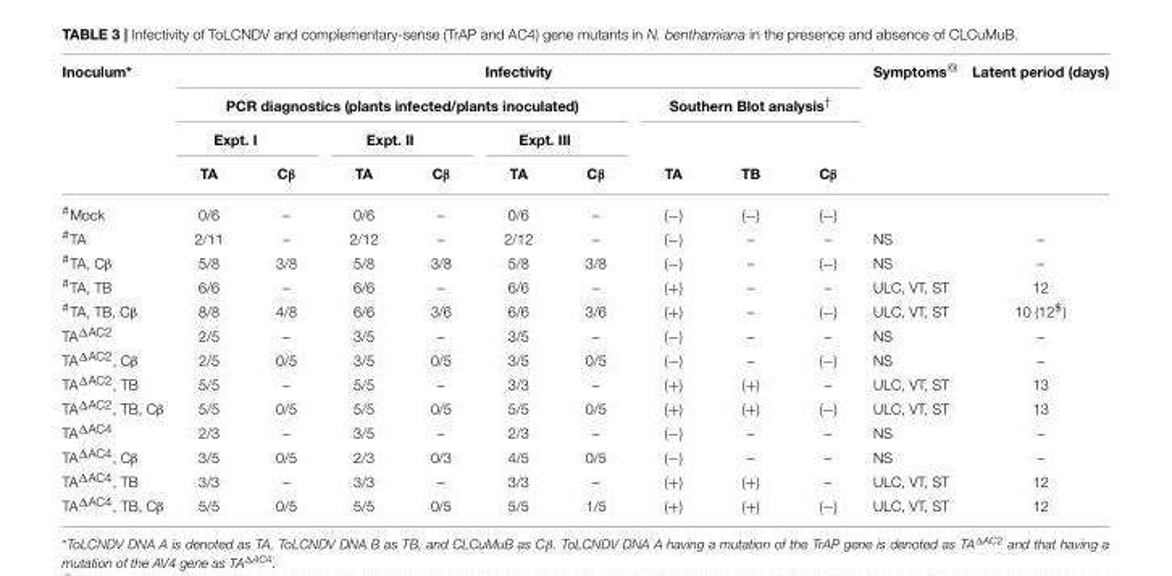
<table><thead><tr><td rowspan="4">Inoculum*</td><td colspan="9">Infectivity</td><td rowspan="4">Symptoms<sup>@</sup></td><td rowspan="4">Latent period (days)</td></tr><tr><td colspan="6">PCR diagnostics (plants infected/plants inoculated)</td><td colspan="3">Southern Blot analysis<sup>†</sup></td></tr><tr><td colspan="2">Expt. I</td><td colspan="2">Expt. II</td><td colspan="2">Expt. III</td><td rowspan="2">TA</td><td rowspan="2">TB</td><td rowspan="2">Cβ</td></tr><tr><td>TA</td><td>Cβ</td><td>TA</td><td>Cβ</td><td>TA</td><td>Cβ</td></tr></thead><tbody><tr><td><sup>#</sup>Mock</td><td>0/6</td><td>–</td><td>0/6</td><td>–</td><td>0/6</td><td>–</td><td>(−)</td><td>(−)</td><td>(−)</td><td></td><td></td></tr><tr><td><sup>#</sup>TA</td><td>2/11</td><td>–</td><td>2/12</td><td>–</td><td>2/12</td><td>–</td><td>(−)</td><td>–</td><td>–</td><td>NS</td><td>–</td></tr><tr><td><sup>#</sup>TA, Cβ</td><td>5/8</td><td>3/8</td><td>5/8</td><td>3/8</td><td>5/8</td><td>3/8</td><td>(−)</td><td>–</td><td>(−)</td><td>NS</td><td>–</td></tr><tr><td><sup>#</sup>TA, TB</td><td>6/6</td><td>–</td><td>6/6</td><td>–</td><td>6/6</td><td>–</td><td>(+)</td><td>–</td><td>–</td><td>ULC, VT, ST</td><td>12</td></tr><tr><td><sup>#</sup>TA, TB, Cβ</td><td>8/8</td><td>4/8</td><td>6/6</td><td>3/6</td><td>6/6</td><td>3/6</td><td>(+)</td><td>–</td><td>(−)</td><td>ULC, VT, ST</td><td>10 (12<sup>$</sup>)</td></tr><tr><td>TA<sup>ΔAC2</sup></td><td>2/5</td><td>–</td><td>3/5</td><td>–</td><td>3/5</td><td>–</td><td>(−)</td><td>–</td><td>–</td><td>NS</td><td>–</td></tr><tr><td>TA<sup>ΔAC2</sup>, Cβ</td><td>2/5</td><td>0/5</td><td>3/5</td><td>0/5</td><td>3/5</td><td>0/5</td><td>(−)</td><td>–</td><td>(−)</td><td>NS</td><td>–</td></tr><tr><td>TA<sup>ΔAC2</sup>, TB</td><td>5/5</td><td>–</td><td>5/5</td><td>–</td><td>3/3</td><td>–</td><td>(+)</td><td>(+)</td><td>–</td><td>ULC, VT, ST</td><td>13</td></tr><tr><td>TA<sup>ΔAC2</sup>, TB, Cβ</td><td>5/5</td><td>0/5</td><td>5/5</td><td>0/5</td><td>5/5</td><td>0/5</td><td>(+)</td><td>(+)</td><td>(−)</td><td>ULC, VT, ST</td><td>13</td></tr><tr><td>TA<sup>ΔAC4</sup></td><td>2/3</td><td>–</td><td>3/5</td><td>–</td><td>2/3</td><td>–</td><td>(−)</td><td>–</td><td>–</td><td>NS</td><td>–</td></tr><tr><td>TA<sup>ΔAC4</sup>, Cβ</td><td>3/5</td><td>0/5</td><td>2/3</td><td>0/3</td><td>4/5</td><td>0/5</td><td>(−)</td><td>–</td><td>–</td><td>NS</td><td>–</td></tr><tr><td>TA<sup>ΔAC4</sup>, TB</td><td>3/3</td><td>–</td><td>3/3</td><td>–</td><td>3/3</td><td>–</td><td>(+)</td><td>(+)</td><td>–</td><td>ULC, VT, ST</td><td>12</td></tr><tr><td>TA<sup>ΔAC4</sup>, TB, Cβ</td><td>5/5</td><td>0/5</td><td>5/5</td><td>0/5</td><td>5/5</td><td>1/5</td><td>(+)</td><td>(+)</td><td>(−)</td><td>ULC, VT, ST</td><td>12</td></tr></tbody></table>